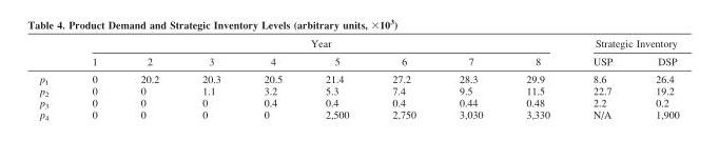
<table><thead><tr><td rowspan="2"></td><td colspan="8">Year</td><td colspan="2">Strategic Inventory</td></tr><tr><td>1</td><td>2</td><td>3</td><td>4</td><td>5</td><td>6</td><td>7</td><td>8</td><td>USP</td><td>DSP</td></tr></thead><tbody><tr><td>p<sub>1</sub></td><td>0</td><td>20.2</td><td>20.3</td><td>20.5</td><td>21.4</td><td>27.2</td><td>28.3</td><td>29.9</td><td>8.6</td><td>26.4</td></tr><tr><td>p<sub>2</sub></td><td>0</td><td>0</td><td>1.1</td><td>3.2</td><td>5.3</td><td>7.4</td><td>9.5</td><td>11.5</td><td>22.7</td><td>19.2</td></tr><tr><td>p<sub>3</sub></td><td>0</td><td>0</td><td>0</td><td>0.4</td><td>0.4</td><td>0.4</td><td>0.44</td><td>0.48</td><td>2.2</td><td>0.2</td></tr><tr><td>p<sub>4</sub></td><td>0</td><td>0</td><td>0</td><td>0</td><td>2,500</td><td>2,750</td><td>3,030</td><td>3,330</td><td>N/A</td><td>1,900</td></tr></tbody></table>